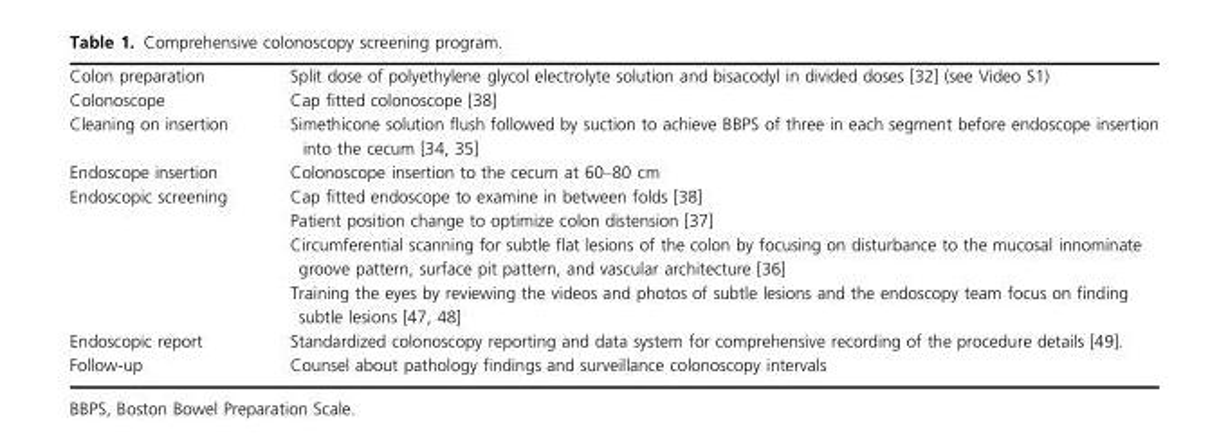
<table><tbody><tr><td>Colon preparation</td><td>Split dose of polyethylene glycol electrolyte solution and bisacodyl in divided doses [32] (see Video S1)</td></tr><tr><td>Colonoscope</td><td>Cap fitted colonoscope [38]</td></tr><tr><td>Cleaning on insertion</td><td>Simethicone solution flush followed by suction to achieve BBPS of three in each segment before endoscope insertion into the cecum [34, 35]</td></tr><tr><td>Endoscope insertion</td><td>Colonoscope insertion to the cecum at 60–80 cm</td></tr><tr><td rowspan="4">Endoscopic screening</td><td>Cap fitted endoscope to examine in between folds [38]</td></tr><tr><td>Patient position change to optimize colon distension [37]</td></tr><tr><td>Circumferential scanning for subtle flat lesions of the colon by focusing on disturbance to the mucosal innominate groove pattern, surface pit pattern, and vascular architecture [36]</td></tr><tr><td>Training the eyes by reviewing the videos and photos of subtle lesions and the endoscopy team focus on finding subtle lesions [47, 48]</td></tr><tr><td>Endoscopic report</td><td>Standardized colonoscopy reporting and data system for comprehensive recording of the procedure details [49].</td></tr><tr><td>Follow-up</td><td>Counsel about pathology findings and surveillance colonoscopy intervals</td></tr></tbody></table>